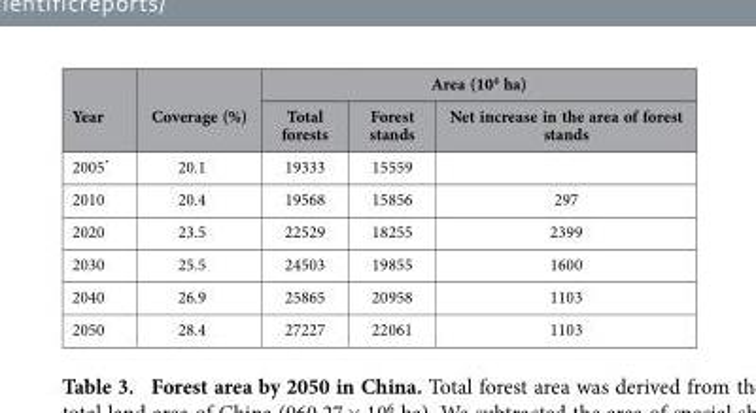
<table><thead><tr><td rowspan="2">Year</td><td rowspan="2">Coverage (%)</td><td colspan="3">Area (10<sup>4</sup> ha)</td></tr><tr><td>Total forests</td><td>Forest stands</td><td>Net increase in the area of forest stands</td></tr></thead><tbody><tr><td>2005*</td><td>20.1</td><td>19333</td><td>15559</td><td></td></tr><tr><td>2010</td><td>20.4</td><td>19568</td><td>15856</td><td>297</td></tr><tr><td>2020</td><td>23.5</td><td>22529</td><td>18255</td><td>2399</td></tr><tr><td>2030</td><td>25.5</td><td>24503</td><td>19855</td><td>1600</td></tr><tr><td>2040</td><td>26.9</td><td>25865</td><td>20958</td><td>1103</td></tr><tr><td>2050</td><td>28.4</td><td>27227</td><td>22061</td><td>1103</td></tr></tbody></table>